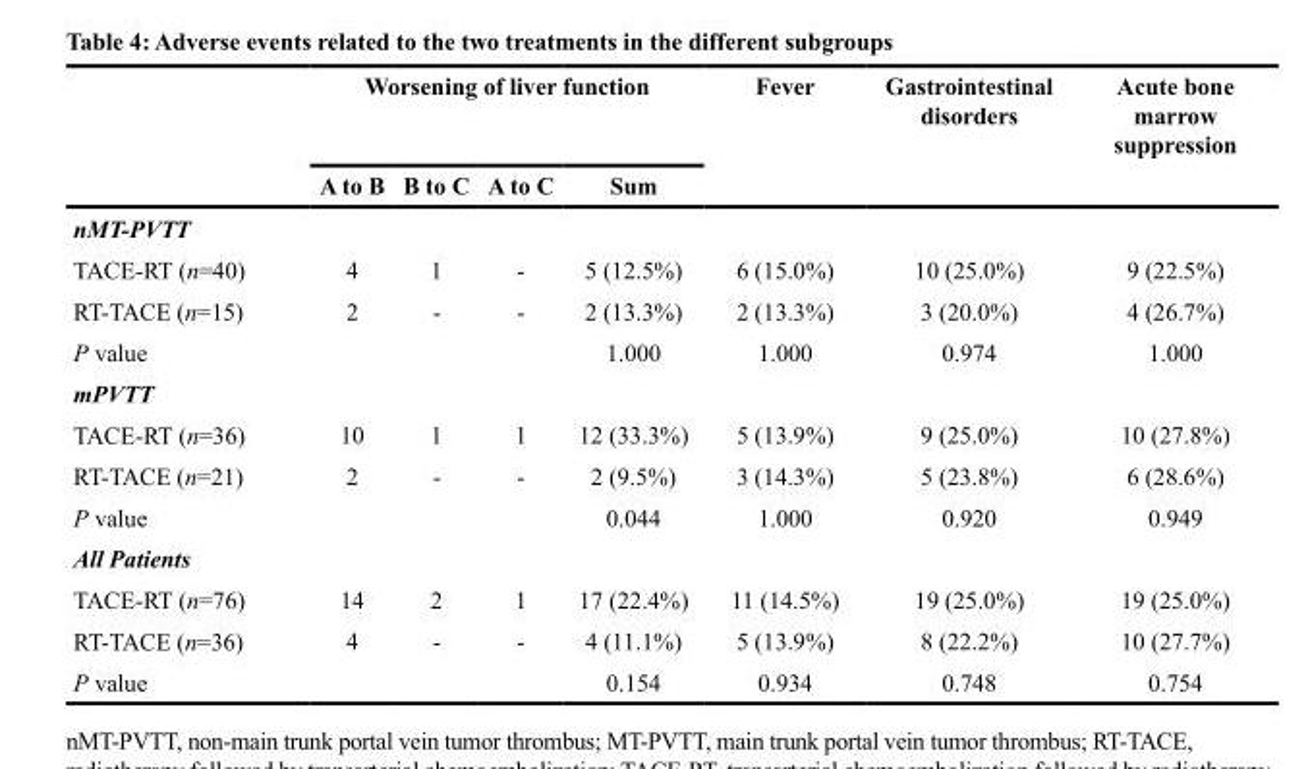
<table><thead><tr><td rowspan="2"></td><td colspan="4">Worsening of liver function</td><td rowspan="2">Fever</td><td rowspan="2">Gastrointestinal disorders</td><td rowspan="2">Acute bone marrow suppression</td></tr><tr><td>A to B</td><td>B to C</td><td>A to C</td><td>Sum</td></tr></thead><tbody><tr><td colspan="8">nMT-PVTT</td></tr><tr><td>TACE-RT (n=40)</td><td>4</td><td>1</td><td>-</td><td>5 (12.5%)</td><td>6 (15.0%)</td><td>10 (25.0%)</td><td>9 (22.5%)</td></tr><tr><td>RT-TACE (n=15)</td><td>2</td><td>-</td><td>-</td><td>2 (13.3%)</td><td>2 (13.3%)</td><td>3 (20.0%)</td><td>4 (26.7%)</td></tr><tr><td>P value</td><td></td><td></td><td></td><td>1.000</td><td>1.000</td><td>0.974</td><td>1.000</td></tr><tr><td colspan="8">mPVTT</td></tr><tr><td>TACE-RT (n=36)</td><td>10</td><td>1</td><td>1</td><td>12 (33.3%)</td><td>5 (13.9%)</td><td>9 (25.0%)</td><td>10 (27.8%)</td></tr><tr><td>RT-TACE (n=21)</td><td>2</td><td>-</td><td>-</td><td>2 (9.5%)</td><td>3 (14.3%)</td><td>5 (23.8%)</td><td>6 (28.6%)</td></tr><tr><td>P value</td><td></td><td></td><td></td><td>0.044</td><td>1.000</td><td>0.920</td><td>0.949</td></tr><tr><td colspan="8">All Patients</td></tr><tr><td>TACE-RT (n=76)</td><td>14</td><td>2</td><td>1</td><td>17 (22.4%)</td><td>11 (14.5%)</td><td>19 (25.0%)</td><td>19 (25.0%)</td></tr><tr><td>RT-TACE (n=36)</td><td>4</td><td>-</td><td>-</td><td>4 (11.1%)</td><td>5 (13.9%)</td><td>8 (22.2%)</td><td>10 (27.7%)</td></tr><tr><td>P value</td><td></td><td></td><td></td><td>0.154</td><td>0.934</td><td>0.748</td><td>0.754</td></tr></tbody></table>